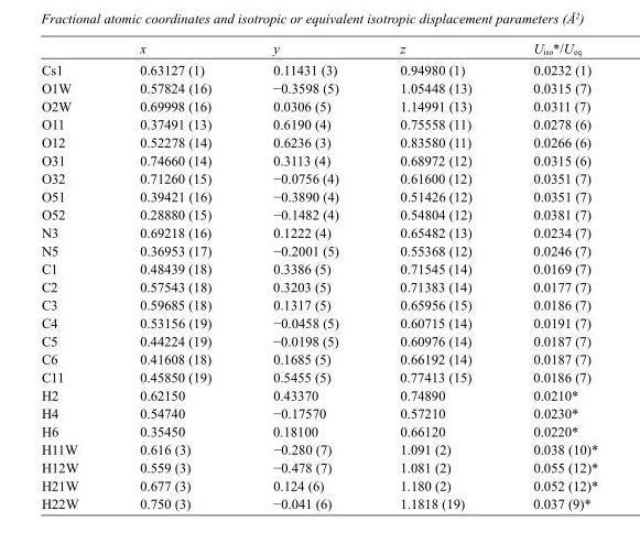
<table><thead><tr><td></td><td>x</td><td>y</td><td>z</td><td>U<sub>iso</sub>*/U<sub>eq</sub></td></tr></thead><tbody><tr><td>Cs1</td><td>0.63127 (1)</td><td>0.11431 (3)</td><td>0.94980 (1)</td><td>0.0232 (1)</td></tr><tr><td>O1W</td><td>0.57824 (16)</td><td>−0.3598 (5)</td><td>1.05448 (13)</td><td>0.0315 (7)</td></tr><tr><td>O2W</td><td>0.69998 (16)</td><td>0.0306 (5)</td><td>1.14991 (13)</td><td>0.0311 (7)</td></tr><tr><td>O11</td><td>0.37491 (13)</td><td>0.6190 (4)</td><td>0.75558 (11)</td><td>0.0278 (6)</td></tr><tr><td>O12</td><td>0.52278 (14)</td><td>0.6236 (3)</td><td>0.83580 (11)</td><td>0.0266 (6)</td></tr><tr><td>O31</td><td>0.74660 (14)</td><td>0.3113 (4)</td><td>0.68972 (12)</td><td>0.0315 (6)</td></tr><tr><td>O32</td><td>0.71260 (15)</td><td>−0.0756 (4)</td><td>0.61600 (12)</td><td>0.0351 (7)</td></tr><tr><td>O51</td><td>0.39421 (16)</td><td>−0.3890 (4)</td><td>0.51426 (12)</td><td>0.0351 (7)</td></tr><tr><td>O52</td><td>0.28880 (15)</td><td>−0.1482 (4)</td><td>0.54804 (12)</td><td>0.0381 (7)</td></tr><tr><td>N3</td><td>0.69218 (16)</td><td>0.1222 (4)</td><td>0.65482 (13)</td><td>0.0234 (7)</td></tr><tr><td>N5</td><td>0.36953 (17)</td><td>−0.2001 (5)</td><td>0.55368 (12)</td><td>0.0246 (7)</td></tr><tr><td>C1</td><td>0.48439 (18)</td><td>0.3386 (5)</td><td>0.71545 (14)</td><td>0.0169 (7)</td></tr><tr><td>C2</td><td>0.57543 (18)</td><td>0.3203 (5)</td><td>0.71383 (14)</td><td>0.0177 (7)</td></tr><tr><td>C3</td><td>0.59685 (18)</td><td>0.1317 (5)</td><td>0.65956 (15)</td><td>0.0186 (7)</td></tr><tr><td>C4</td><td>0.53156 (19)</td><td>−0.0458 (5)</td><td>0.60715 (14)</td><td>0.0191 (7)</td></tr><tr><td>C5</td><td>0.44224 (19)</td><td>−0.0198 (5)</td><td>0.60976 (14)</td><td>0.0187 (7)</td></tr><tr><td>C6</td><td>0.41608 (18)</td><td>0.1685 (5)</td><td>0.66192 (14)</td><td>0.0187 (7)</td></tr><tr><td>C11</td><td>0.45850 (19)</td><td>0.5455 (5)</td><td>0.77413 (15)</td><td>0.0186 (7)</td></tr><tr><td>H2</td><td>0.62150</td><td>0.43370</td><td>0.74890</td><td>0.0210*</td></tr><tr><td>H4</td><td>0.54740</td><td>−0.17570</td><td>0.57210</td><td>0.0230*</td></tr><tr><td>H6</td><td>0.35450</td><td>0.18100</td><td>0.66120</td><td>0.0220*</td></tr><tr><td>H11W</td><td>0.616 (3)</td><td>−0.280 (7)</td><td>1.091 (2)</td><td>0.038 (10)*</td></tr><tr><td>H12W</td><td>0.559 (3)</td><td>−0.478 (7)</td><td>1.081 (2)</td><td>0.055 (12)*</td></tr><tr><td>H21W</td><td>0.677 (3)</td><td>0.124 (6)</td><td>1.180 (2)</td><td>0.052 (12)*</td></tr><tr><td>H22W</td><td>0.750 (3)</td><td>−0.041 (6)</td><td>1.1818 (19)</td><td>0.037 (9)*</td></tr></tbody></table>